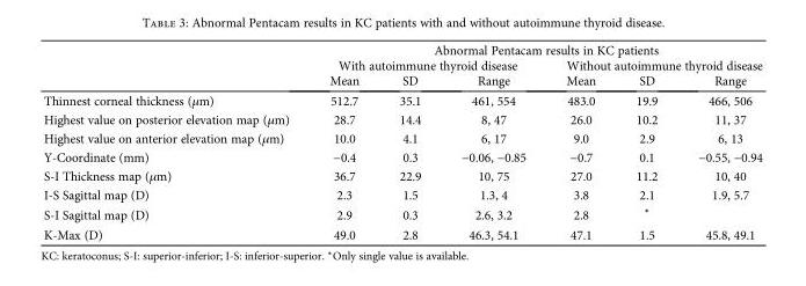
<table><thead><tr><td rowspan="3"></td><td colspan="6">Abnormal Pentacam results in KC patients</td></tr><tr><td colspan="3">With autoimmune thyroid disease</td><td colspan="3">Without autoimmune thyroid disease</td></tr><tr><td>Mean</td><td>SD</td><td>Range</td><td>Mean</td><td>SD</td><td>Range</td></tr></thead><tbody><tr><td>Thinnest corneal thickness (μm)</td><td>512.7</td><td>35.1</td><td>461, 554</td><td>483.0</td><td>19.9</td><td>466, 506</td></tr><tr><td>Highest value on posterior elevation map (μm)</td><td>28.7</td><td>14.4</td><td>8, 47</td><td>26.0</td><td>10.2</td><td>11, 37</td></tr><tr><td>Highest value on anterior elevation map (μm)</td><td>10.0</td><td>4.1</td><td>6, 17</td><td>9.0</td><td>2.9</td><td>6, 13</td></tr><tr><td>Y-Coordinate (mm)</td><td>−0.4</td><td>0.3</td><td>−0.06, −0.85</td><td>−0.7</td><td>0.1</td><td>−0.55, −0.94</td></tr><tr><td>S-I Thickness map (μm)</td><td>36.7</td><td>22.9</td><td>10, 75</td><td>27.0</td><td>11.2</td><td>10, 40</td></tr><tr><td>I-S Sagittal map (D)</td><td>2.3</td><td>1.5</td><td>1.3, 4</td><td>3.8</td><td>2.1</td><td>1.9, 5.7</td></tr><tr><td>S-I Sagittal map (D)</td><td>2.9</td><td>0.3</td><td>2.6, 3.2</td><td>2.8</td><td>∗</td><td></td></tr><tr><td>K-Max (D)</td><td>49.0</td><td>2.8</td><td>46.3, 54.1</td><td>47.1</td><td>1.5</td><td>45.8, 49.1</td></tr></tbody></table>